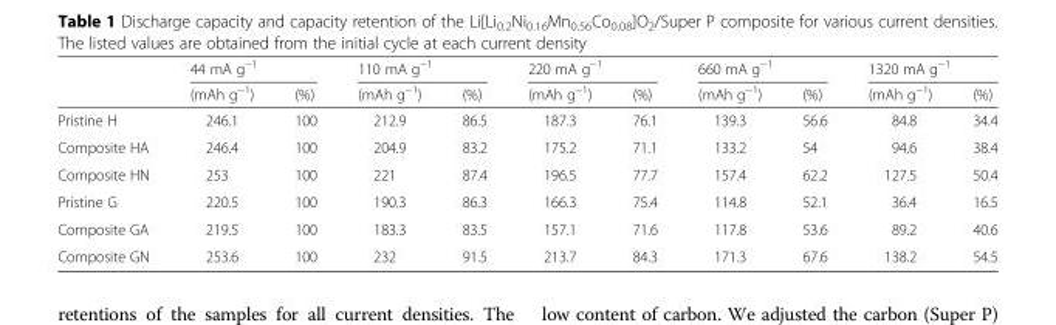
<table><thead><tr><td rowspan="2"></td><td colspan="2">44 mA g<sup>−1</sup></td><td colspan="2">110 mA g<sup>−1</sup></td><td colspan="2">220 mA g<sup>−1</sup></td><td colspan="2">660 mA g<sup>−1</sup></td><td colspan="2">1320 mA g<sup>−1</sup></td></tr><tr><td>(mAh g<sup>−1</sup>)</td><td>(%)</td><td>(mAh g<sup>−1</sup>)</td><td>(%)</td><td>(mAh g<sup>−1</sup>)</td><td>(%)</td><td>(mAh g<sup>−1</sup>)</td><td>(%)</td><td>(mAh g<sup>−1</sup>)</td><td>(%)</td></tr></thead><tbody><tr><td>Pristine H</td><td>246.1</td><td>100</td><td>212.9</td><td>86.5</td><td>187.3</td><td>76.1</td><td>139.3</td><td>56.6</td><td>84.8</td><td>34.4</td></tr><tr><td>Composite HA</td><td>246.4</td><td>100</td><td>204.9</td><td>83.2</td><td>175.2</td><td>71.1</td><td>133.2</td><td>54</td><td>94.6</td><td>38.4</td></tr><tr><td>Composite HN</td><td>253</td><td>100</td><td>221</td><td>87.4</td><td>196.5</td><td>77.7</td><td>157.4</td><td>62.2</td><td>127.5</td><td>50.4</td></tr><tr><td>Pristine G</td><td>220.5</td><td>100</td><td>190.3</td><td>86.3</td><td>166.3</td><td>75.4</td><td>114.8</td><td>52.1</td><td>36.4</td><td>16.5</td></tr><tr><td>Composite GA</td><td>219.5</td><td>100</td><td>183.3</td><td>83.5</td><td>157.1</td><td>71.6</td><td>117.8</td><td>53.6</td><td>89.2</td><td>40.6</td></tr><tr><td>Composite GN</td><td>253.6</td><td>100</td><td>232</td><td>91.5</td><td>213.7</td><td>84.3</td><td>171.3</td><td>67.6</td><td>138.2</td><td>54.5</td></tr></tbody></table>